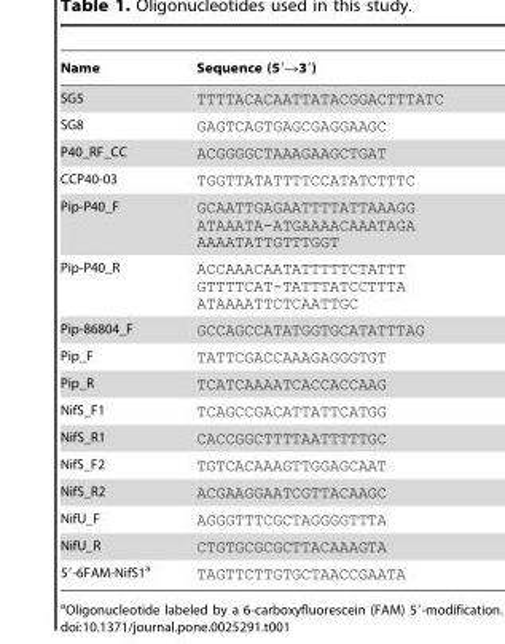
<table><thead><tr><td>Name</td><td>Sequence (5′→3′)</td></tr></thead><tbody><tr><td>SG5</td><td>TTTTACACAATTATACGGACTTTATC</td></tr><tr><td>SG8</td><td>GAGTCAGTGAGCGAGGAAGC</td></tr><tr><td>P40_RF_CC</td><td>ACGGGGCTAAAGAAGCTGAT</td></tr><tr><td>CCP40-03</td><td>TGGTTATATTTTCCATATCTTTC</td></tr><tr><td>Pip-P40_F</td><td>GCAATTGAGAATTTTATTAAAGG ATAAATA-ATGAAAACAAATAGA AAAATATTGTTTGGT</td></tr><tr><td>Pip-P40_R</td><td>ACCAAACAATATTTTTCTATTT GTTTTCAT-TATTTATCCTTTA ATAAAATTCTCAATTGC</td></tr><tr><td>Pip-86804_F</td><td>GCCAGCCATATGGTGCATATTTAG</td></tr><tr><td>Pip_F</td><td>TATTCGACCAAAGAGGGTGT</td></tr><tr><td>Pip_R</td><td>TCATCAAAATCACCACCAAG</td></tr><tr><td>NifS_F1</td><td>TCAGCCGACATTATTCATGG</td></tr><tr><td>NifS_R1</td><td>CACCGGCTTTTAATTTTTGC</td></tr><tr><td>NifS_F2</td><td>TGTCACAAAGTTGGAGCAAT</td></tr><tr><td>NifS_R2</td><td>ACGAAGGAATCGTTACAAGC</td></tr><tr><td>NifU_F</td><td>AGGGTTTCGCTAGGGGTTTA</td></tr><tr><td>NifU_R</td><td>CTGTGCGCGCTTACAAAGTA</td></tr><tr><td>5′-6FAM-NifS1<sup>a</sup></td><td>TAGTTCTTGTGCTAACCGAATA</td></tr></tbody></table>